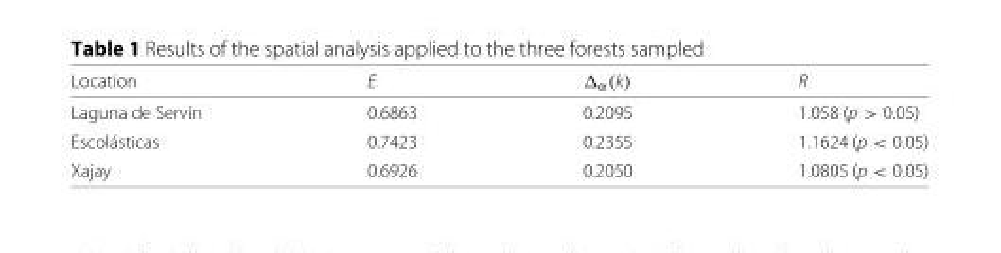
<table><thead><tr><td>Location</td><td>E</td><td>Δ<sub>α</sub>(k)</td><td>R</td></tr></thead><tbody><tr><td>Laguna de Servín</td><td>0.6863</td><td>0.2095</td><td>1.058 (p &gt; 0.05)</td></tr><tr><td>Escolásticas</td><td>0.7423</td><td>0.2355</td><td>1.1624 (p &lt; 0.05)</td></tr><tr><td>Xajay</td><td>0.6926</td><td>0.2050</td><td>1.0805 (p &lt; 0.05)</td></tr></tbody></table>